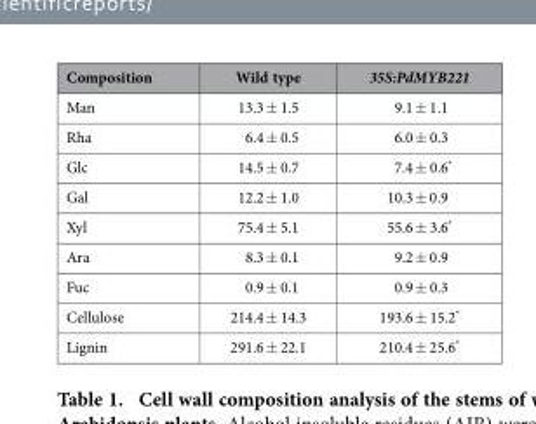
<table><thead><tr><td>Composition</td><td>Wild type</td><td>35S:PdMYB221</td></tr></thead><tbody><tr><td>Man</td><td>13.3 ± 1.5</td><td>9.1 ± 1.1</td></tr><tr><td>Rha</td><td>6.4 ± 0.5</td><td>6.0 ± 0.3</td></tr><tr><td>Glc</td><td>14.5 ± 0.7</td><td>7.4 ± 0.6*</td></tr><tr><td>Gal</td><td>12.2 ± 1.0</td><td>10.3 ± 0.9</td></tr><tr><td>Xyl</td><td>75.4 ± 5.1</td><td>55.6 ± 3.6*</td></tr><tr><td>Ara</td><td>8.3 ± 0.1</td><td>9.2 ± 0.9</td></tr><tr><td>Fuc</td><td>0.9 ± 0.1</td><td>0.9 ± 0.3</td></tr><tr><td>Cellulose</td><td>214.4 ± 14.3</td><td>193.6 ± 15.2*</td></tr><tr><td>Lignin</td><td>291.6 ± 22.1</td><td>210.4 ± 25.6*</td></tr></tbody></table>